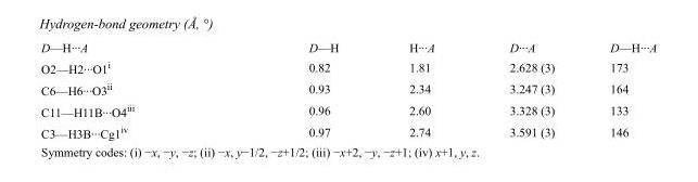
<table><tbody><tr><td>D—H···A</td><td>D—H</td><td>H···A</td><td>D···A</td><td>D—H···A</td></tr><tr><td>O2—H2···O1<sup>i</sup></td><td>0.82</td><td>1.81</td><td>2.628 (3)</td><td>173</td></tr><tr><td>C6—H6···O3<sup>ii</sup></td><td>0.93</td><td>2.34</td><td>3.247 (3)</td><td>164</td></tr><tr><td>C11—H11B···O4<sup>iii</sup></td><td>0.96</td><td>2.60</td><td>3.328 (3)</td><td>133</td></tr><tr><td>C3—H3B···Cg1<sup>iv</sup></td><td>0.97</td><td>2.74</td><td>3.591 (3)</td><td>146</td></tr></tbody></table>